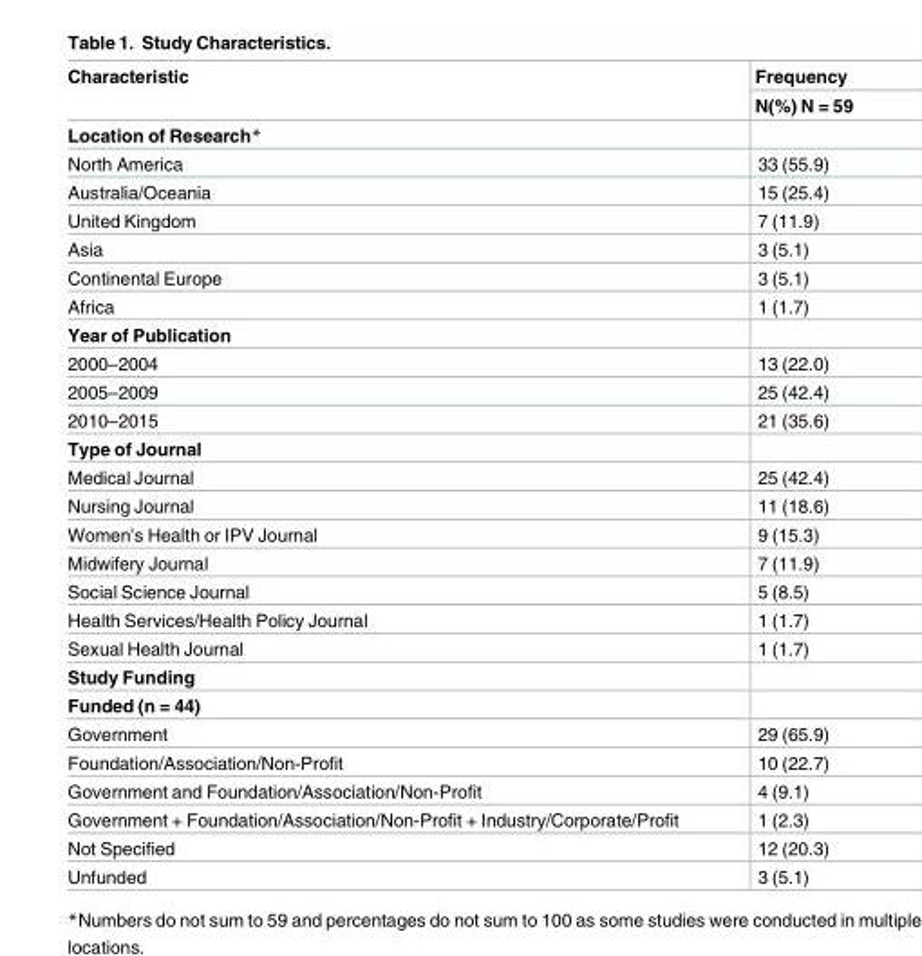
<table><thead><tr><td rowspan="2">Characteristic</td><td rowspan="2">Frequency N(%) N = 59</td></tr><tr></tr></thead><tbody><tr><td colspan="2">Location of Research*</td></tr><tr><td>North America</td><td>33 (55.9)</td></tr><tr><td>Australia/Oceania</td><td>15 (25.4)</td></tr><tr><td>United Kingdom</td><td>7 (11.9)</td></tr><tr><td>Asia</td><td>3 (5.1)</td></tr><tr><td>Continental Europe</td><td>3 (5.1)</td></tr><tr><td>Africa</td><td>1 (1.7)</td></tr><tr><td colspan="2">Year of Publication</td></tr><tr><td>2000–2004</td><td>13 (22.0)</td></tr><tr><td>2005–2009</td><td>25 (42.4)</td></tr><tr><td>2010–2015</td><td>21 (35.6)</td></tr><tr><td colspan="2">Type of Journal</td></tr><tr><td>Medical Journal</td><td>25 (42.4)</td></tr><tr><td>Nursing Journal</td><td>11 (18.6)</td></tr><tr><td>Women’s Health or IPV Journal</td><td>9 (15.3)</td></tr><tr><td>Midwifery Journal</td><td>7 (11.9)</td></tr><tr><td>Social Science Journal</td><td>5 (8.5)</td></tr><tr><td>Health Services/Health Policy Journal</td><td>1 (1.7)</td></tr><tr><td>Sexual Health Journal</td><td>1 (1.7)</td></tr><tr><td colspan="2">Study Funding</td></tr><tr><td colspan="2">Funded (n = 44)</td></tr><tr><td>Government</td><td>29 (65.9)</td></tr><tr><td>Foundation/Association/Non-Profit</td><td>10 (22.7)</td></tr><tr><td>Government and Foundation/Association/Non-Profit</td><td>4 (9.1)</td></tr><tr><td>Government + Foundation/Association/Non-Profit + Industry/Corporate/Profit</td><td>1 (2.3)</td></tr><tr><td>Not Specified</td><td>12 (20.3)</td></tr><tr><td>Unfunded</td><td>3 (5.1)</td></tr></tbody></table>